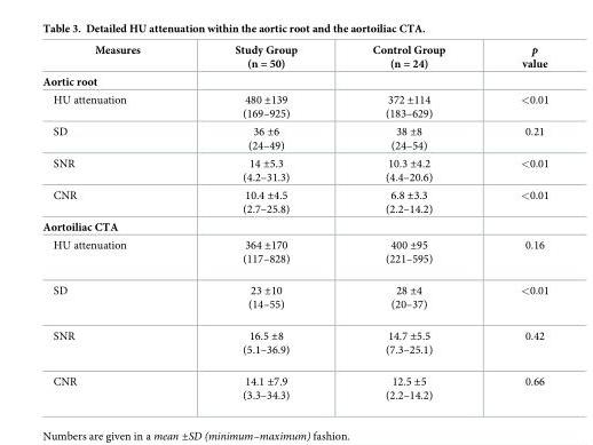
<table><thead><tr><td>Measures</td><td>Study Group (n = 50)</td><td>Control Group (n = 24)</td><td>p value</td></tr></thead><tbody><tr><td colspan="4">Aortic root</td></tr><tr><td>HU attenuation</td><td>480 ±139 (169–925)</td><td>372 ±114 (183–629)</td><td>&lt;0.01</td></tr><tr><td>SD</td><td>36 ±6 (24–49)</td><td>38 ±8 (24–54)</td><td>0.21</td></tr><tr><td>SNR</td><td>14 ±5.3 (4.2–31.3)</td><td>10.3 ±4.2 (4.4–20.6)</td><td>&lt;0.01</td></tr><tr><td>CNR</td><td>10.4 ±4.5 (2.7–25.8)</td><td>6.8 ±3.3 (2.2–14.2)</td><td>&lt;0.01</td></tr><tr><td colspan="4">Aortoiliac CTA</td></tr><tr><td>HU attenuation</td><td>364 ±170 (117–828)</td><td>400 ±95 (221–595)</td><td>0.16</td></tr><tr><td>SD</td><td>23 ±10 (14–55)</td><td>28 ±4 (20–37)</td><td>&lt;0.01</td></tr><tr><td>SNR</td><td>16.5 ±8 (5.1–36.9)</td><td>14.7 ±5.5 (7.3–25.1)</td><td>0.42</td></tr><tr><td>CNR</td><td>14.1 ±7.9 (3.3–34.3)</td><td>12.5 ±5 (2.2–14.2)</td><td>0.66</td></tr></tbody></table>